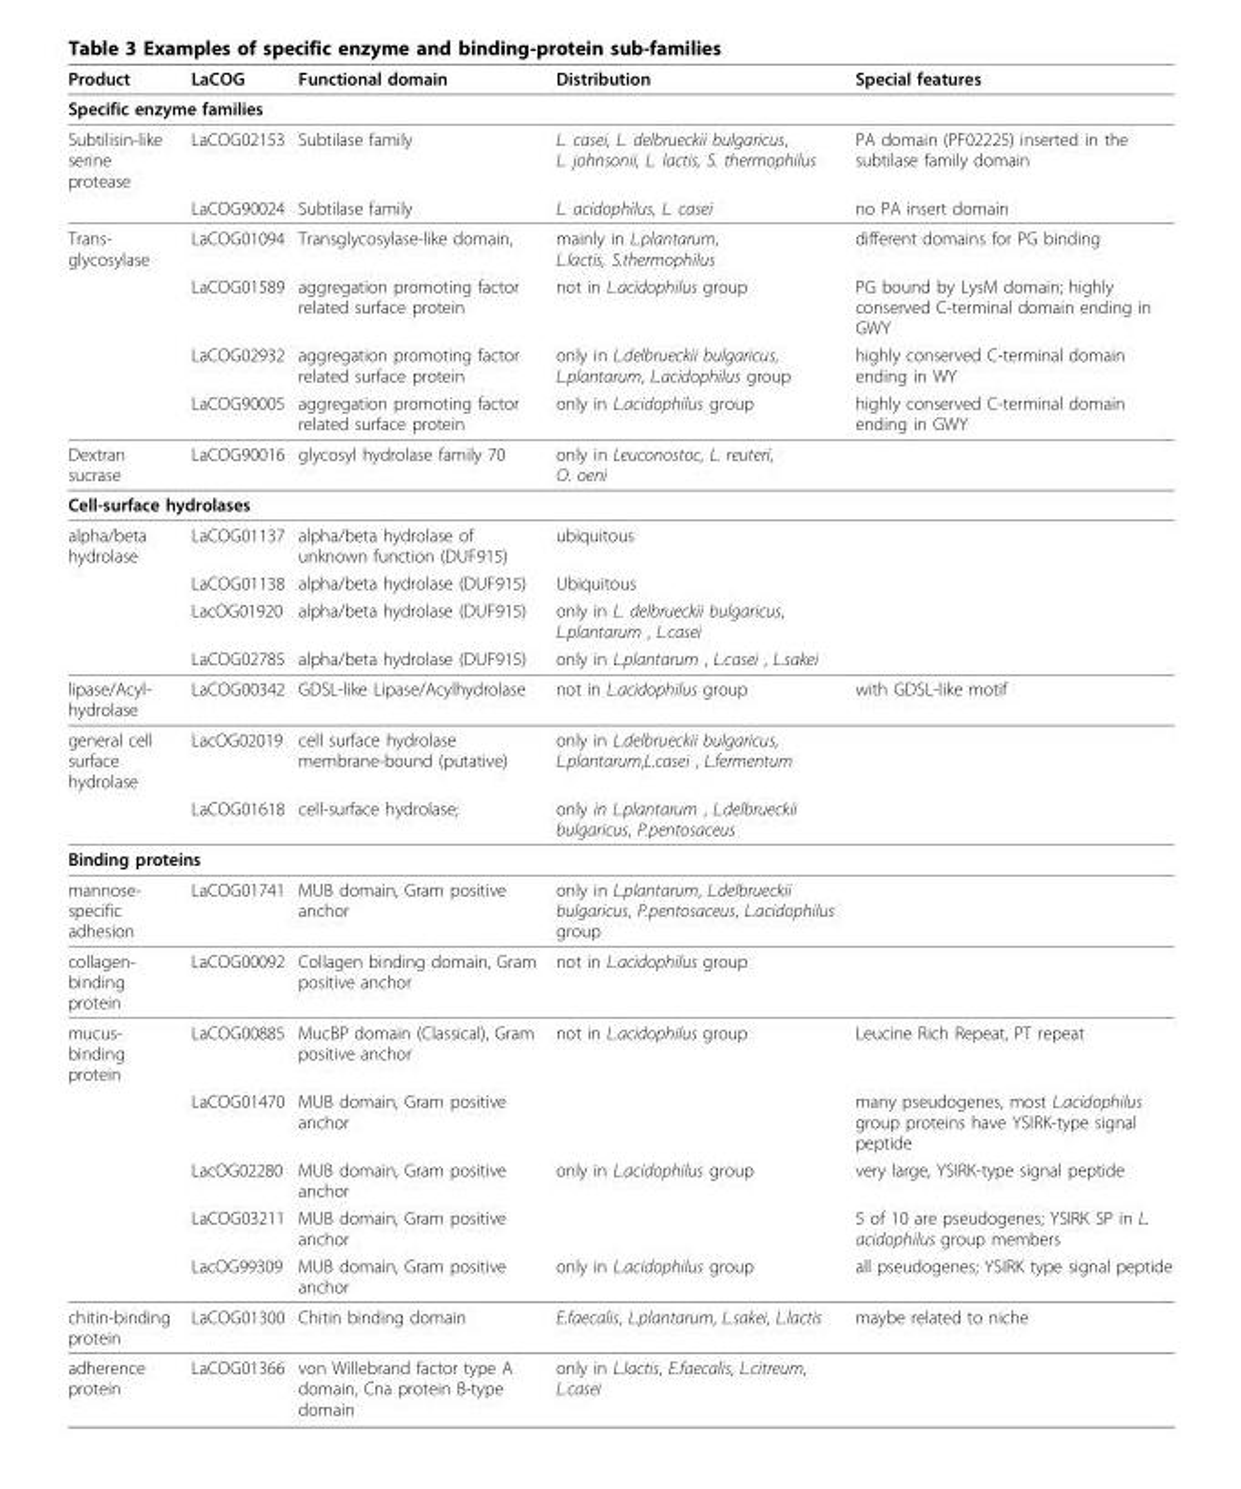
<table><thead><tr><td>Product</td><td>LaCOG</td><td>Functional domain</td><td>Distribution</td><td>Special features</td></tr></thead><tbody><tr><td colspan="5">Specific enzyme families</td></tr><tr><td rowspan="2">Subtilisin-like serine protease</td><td>LaCOG02153</td><td>Subtilase family</td><td>L. casei, L. delbrueckii bulgaricus, L. johnsonii, L. lactis, S. thermophilus</td><td>PA domain (PF02225) inserted in the subtilase family domain</td></tr><tr><td>LaCOG90024</td><td>Subtilase family</td><td>L. acidophilus, L. casei</td><td>no PA insert domain</td></tr><tr><td rowspan="4">Trans- glycosylase</td><td>LaCOG01094</td><td>Transglycosylase-like domain,</td><td>mainly in L.plantarum, L.lactis, S.thermophilus</td><td>different domains for PG binding</td></tr><tr><td>LaCOG01589</td><td>aggregation promoting factor related surface protein</td><td>not in L.acidophilus group</td><td>PG bound by LysM domain; highly conserved C-terminal domain ending in GWY</td></tr><tr><td>LaCOG02932</td><td>aggregation promoting factor related surface protein</td><td>only in L.delbrueckii bulgaricus, L.plantarum, L.acidophilus group</td><td>highly conserved C-terminal domain ending in WY</td></tr><tr><td>LaCOG90005</td><td>aggregation promoting factor related surface protein</td><td>only in L.acidophilus group</td><td>highly conserved C-terminal domain ending in GWY</td></tr><tr><td>Dextran sucrase</td><td>LaCOG90016</td><td>glycosyl hydrolase family 70</td><td>only in Leuconostoc, L. reuteri, O. oeni</td><td></td></tr><tr><td colspan="5">Cell-surface hydrolases</td></tr><tr><td rowspan="4">alpha/beta hydrolase</td><td>LaCOG01137</td><td>alpha/beta hydrolase of unknown function (DUF915)</td><td>ubiquitous</td><td></td></tr><tr><td>LaCOG01138</td><td>alpha/beta hydrolase (DUF915)</td><td>Ubiquitous</td><td></td></tr><tr><td>LacOG01920</td><td>alpha/beta hydrolase (DUF915)</td><td>only in L. delbrueckii bulgaricus, L.plantarum , L.casei</td><td></td></tr><tr><td>LaCOG02785</td><td>alpha/beta hydrolase (DUF915)</td><td>only in L.plantarum , L.casei , L.sakei</td><td></td></tr><tr><td>lipase/Acyl- hydrolase</td><td>LaCOG00342</td><td>GDSL-like Lipase/Acylhydrolase</td><td>not in L.acidophilus group</td><td>with GDSL-like motif</td></tr><tr><td rowspan="2">general cell surface hydrolase</td><td>LacOG02019</td><td>cell surface hydrolase membrane-bound (putative)</td><td>only in L.delbrueckii bulgaricus, L.plantarum,L.casei , L.fermentum</td><td></td></tr><tr><td>LaCOG01618</td><td>cell-surface hydrolase;</td><td>only in L.plantarum , L.delbrueckii bulgaricus, P.pentosaceus</td><td></td></tr><tr><td colspan="5">Binding proteins</td></tr><tr><td>mannose- specific adhesion</td><td>LaCOG01741</td><td>MUB domain, Gram positive anchor</td><td>only in L.plantarum, L.delbrueckii bulgaricus, P.pentosaceus, L.acidophilus group</td><td></td></tr><tr><td>collagen- binding protein</td><td>LaCOG00092</td><td>Collagen binding domain, Gram positive anchor</td><td>not in L.acidophilus group</td><td></td></tr><tr><td rowspan="5">mucus- binding protein</td><td>LaCOG00885</td><td>MucBP domain (Classical), Gram positive anchor</td><td>not in L.acidophilus group</td><td>Leucine Rich Repeat, PT repeat</td></tr><tr><td>LaCOG01470</td><td>MUB domain, Gram positive anchor</td><td></td><td>many pseudogenes, most L.acidophilus group proteins have YSIRK-type signal peptide</td></tr><tr><td>LacOG02280</td><td>MUB domain, Gram positive anchor</td><td>only in L.acidophilus group</td><td>very large, YSIRK-type signal peptide</td></tr><tr><td>LaCOG03211</td><td>MUB domain, Gram positive anchor</td><td></td><td>5 of 10 are pseudogenes; YSIRK SP in L. acidophilus group members</td></tr><tr><td>LacOG99309</td><td>MUB domain, Gram positive anchor</td><td>only in L.acidophilus group</td><td>all pseudogenes; YSIRK type signal peptide</td></tr><tr><td>chitin-binding protein</td><td>LaCOG01300</td><td>Chitin binding domain</td><td>E.faecalis, L.plantarum, L.sakei, L.lactis</td><td>maybe related to niche</td></tr><tr><td>adherence protein</td><td>LaCOG01366</td><td>von Willebrand factor type A domain, Cna protein B-type domain</td><td>only in L.lactis, E.faecalis, L.citreum, L.casei</td><td></td></tr></tbody></table>